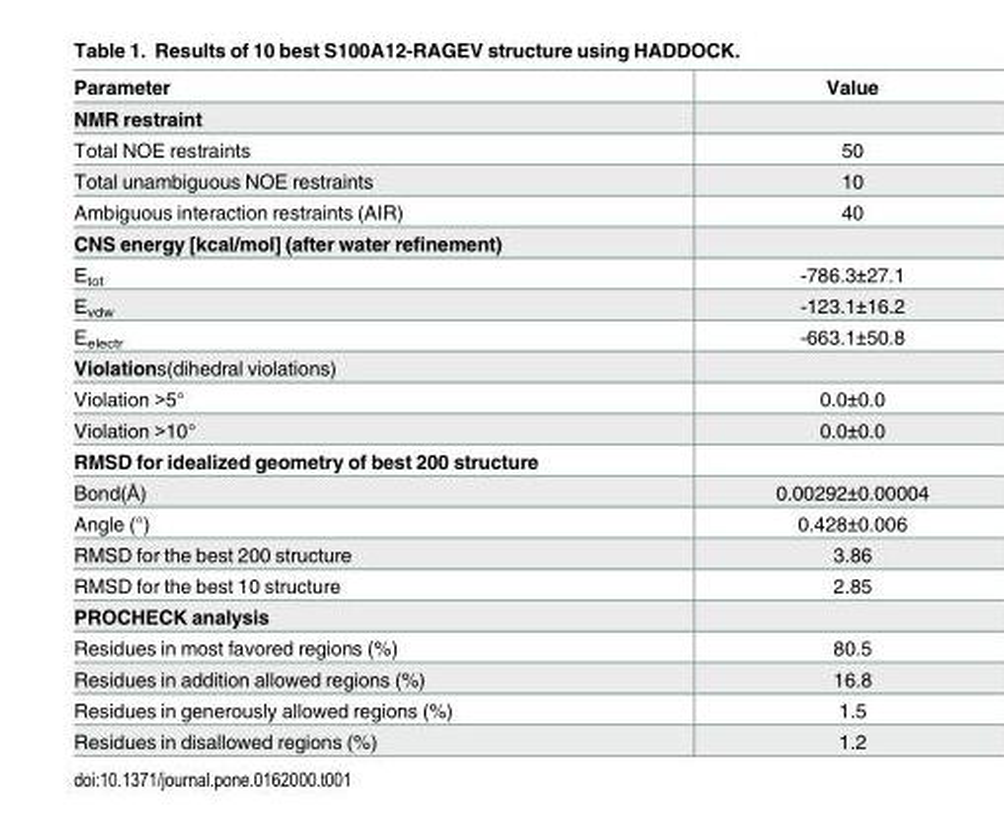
<table><thead><tr><td>Parameter</td><td>Value</td></tr></thead><tbody><tr><td colspan="2">NMR restraint</td></tr><tr><td>Total NOE restraints</td><td>50</td></tr><tr><td>Total unambiguous NOE restraints</td><td>10</td></tr><tr><td>Ambiguous interaction restraints (AIR)</td><td>40</td></tr><tr><td colspan="2">CNS energy [kcal/mol] (after water refinement)</td></tr><tr><td>E<sub>tot</sub></td><td>-786.3±27.1</td></tr><tr><td>E<sub>vdw</sub></td><td>-123.1±16.2</td></tr><tr><td>E<sub>electr</sub></td><td>-663.1±50.8</td></tr><tr><td colspan="2">Violations(dihedral violations)</td></tr><tr><td>Violation &gt;5°</td><td>0.0±0.0</td></tr><tr><td>Violation &gt;10°</td><td>0.0±0.0</td></tr><tr><td colspan="2">RMSD for idealized geometry of best 200 structure</td></tr><tr><td>Bond(Å)</td><td>0.00292±0.00004</td></tr><tr><td>Angle (°)</td><td>0.428±0.006</td></tr><tr><td>RMSD for the best 200 structure</td><td>3.86</td></tr><tr><td>RMSD for the best 10 structure</td><td>2.85</td></tr><tr><td colspan="2">PROCHECK analysis</td></tr><tr><td>Residues in most favored regions (%)</td><td>80.5</td></tr><tr><td>Residues in addition allowed regions (%)</td><td>16.8</td></tr><tr><td>Residues in generously allowed regions (%)</td><td>1.5</td></tr><tr><td>Residues in disallowed regions (%)</td><td>1.2</td></tr></tbody></table>